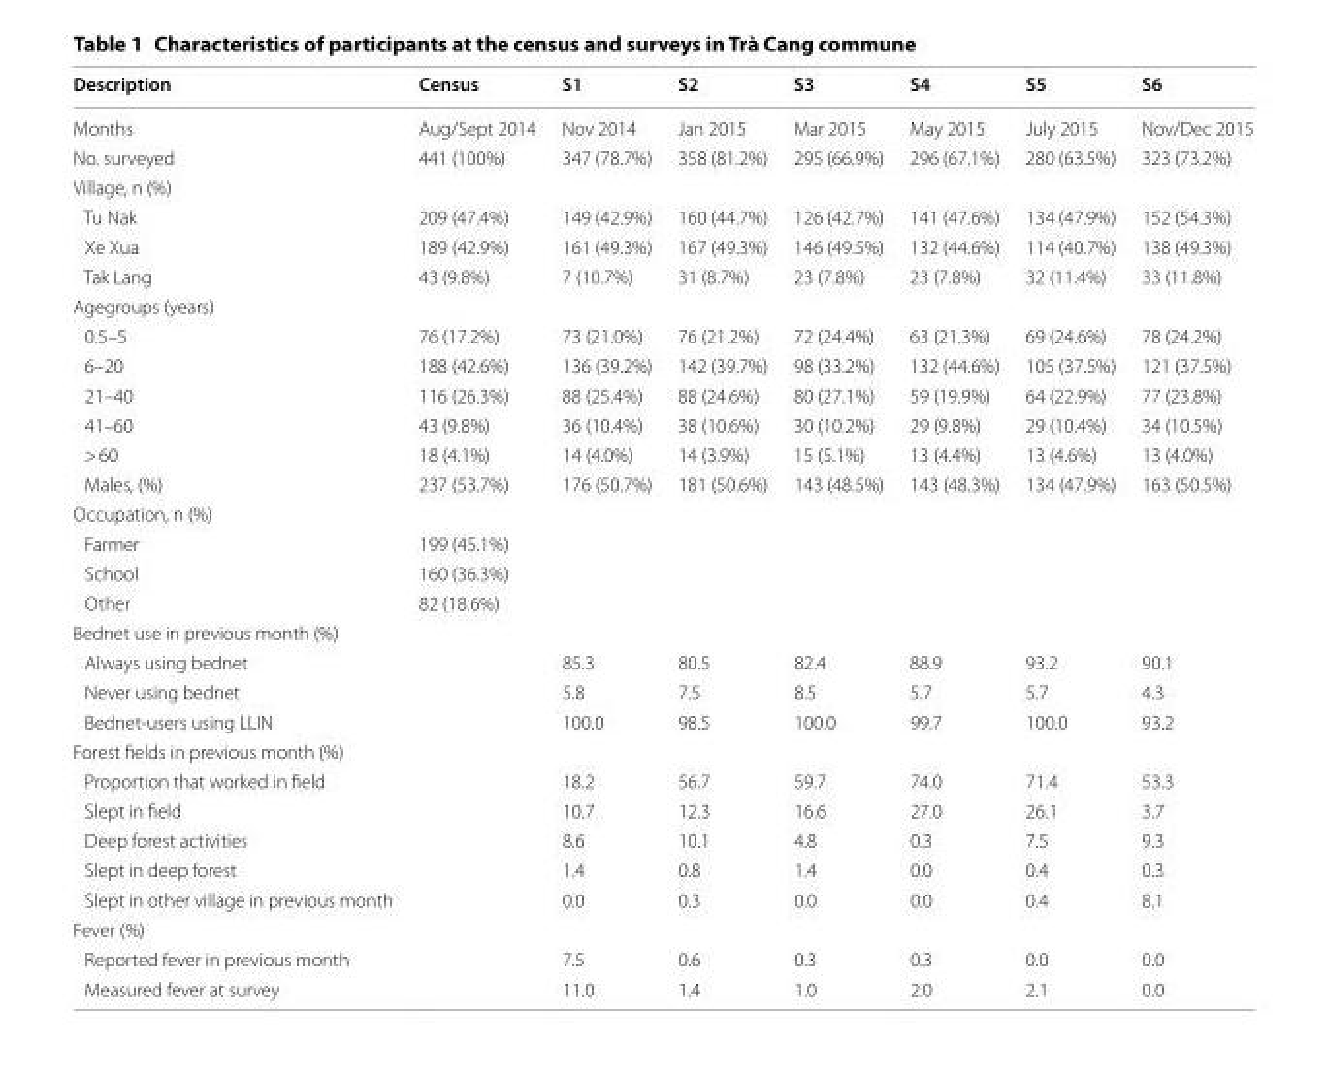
<table><thead><tr><td>Description</td><td>Census</td><td>S1</td><td>S2</td><td>S3</td><td>S4</td><td>S5</td><td>S6</td></tr></thead><tbody><tr><td>Months</td><td>Aug/Sept 2014</td><td>Nov 2014</td><td>Jan 2015</td><td>Mar 2015</td><td>May 2015</td><td>July 2015</td><td>Nov/Dec 2015</td></tr><tr><td>No. surveyed</td><td>441 (100%)</td><td>347 (78.7%)</td><td>358 (81.2%)</td><td>295 (66.9%)</td><td>296 (67.1%)</td><td>280 (63.5%)</td><td>323 (73.2%)</td></tr><tr><td colspan="8">Village, n (%)</td></tr><tr><td>Tu Nak</td><td>209 (47.4%)</td><td>149 (42.9%)</td><td>160 (44.7%)</td><td>126 (42.7%)</td><td>141 (47.6%)</td><td>134 (47.9%)</td><td>152 (54.3%)</td></tr><tr><td>Xe Xua</td><td>189 (42.9%)</td><td>161 (49.3%)</td><td>167 (49.3%)</td><td>146 (49.5%)</td><td>132 (44.6%)</td><td>114 (40.7%)</td><td>138 (49.3%)</td></tr><tr><td>Tak Lang</td><td>43 (9.8%)</td><td>7 (10.7%)</td><td>31 (8.7%)</td><td>23 (7.8%)</td><td>23 (7.8%)</td><td>32 (11.4%)</td><td>33 (11.8%)</td></tr><tr><td colspan="8">Agegroups (years)</td></tr><tr><td>0.5–5</td><td>76 (17.2%)</td><td>73 (21.0%)</td><td>76 (21.2%)</td><td>72 (24.4%)</td><td>63 (21.3%)</td><td>69 (24.6%)</td><td>78 (24.2%)</td></tr><tr><td>6–20</td><td>188 (42.6%)</td><td>136 (39.2%)</td><td>142 (39.7%)</td><td>98 (33.2%)</td><td>132 (44.6%)</td><td>105 (37.5%)</td><td>121 (37.5%)</td></tr><tr><td>21–40</td><td>116 (26.3%)</td><td>88 (25.4%)</td><td>88 (24.6%)</td><td>80 (27.1%)</td><td>59 (19.9%)</td><td>64 (22.9%)</td><td>77 (23.8%)</td></tr><tr><td>41–60</td><td>43 (9.8%)</td><td>36 (10.4%)</td><td>38 (10.6%)</td><td>30 (10.2%)</td><td>29 (9.8%)</td><td>29 (10.4%)</td><td>34 (10.5%)</td></tr><tr><td>&gt; 60</td><td>18 (4.1%)</td><td>14 (4.0%)</td><td>14 (3.9%)</td><td>15 (5.1%)</td><td>13 (4.4%)</td><td>13 (4.6%)</td><td>13 (4.0%)</td></tr><tr><td>Males, (%)</td><td>237 (53.7%)</td><td>176 (50.7%)</td><td>181 (50.6%)</td><td>143 (48.5%)</td><td>143 (48.3%)</td><td>134 (47.9%)</td><td>163 (50.5%)</td></tr><tr><td colspan="8">Occupation, n (%)</td></tr><tr><td>Farmer</td><td>199 (45.1%)</td><td></td><td></td><td></td><td></td><td></td><td></td></tr><tr><td>School</td><td>160 (36.3%)</td><td></td><td></td><td></td><td></td><td></td><td></td></tr><tr><td>Other</td><td>82 (18.6%)</td><td></td><td></td><td></td><td></td><td></td><td></td></tr><tr><td colspan="8">Bednet use in previous month (%)</td></tr><tr><td>Always using bednet</td><td></td><td>85.3</td><td>80.5</td><td>82.4</td><td>88.9</td><td>93.2</td><td>90.1</td></tr><tr><td>Never using bednet</td><td></td><td>5.8</td><td>7.5</td><td>8.5</td><td>5.7</td><td>5.7</td><td>4.3</td></tr><tr><td>Bednet‑users using LLIN</td><td></td><td>100.0</td><td>98.5</td><td>100.0</td><td>99.7</td><td>100.0</td><td>93.2</td></tr><tr><td colspan="8">Forest fields in previous month (%)</td></tr><tr><td>Proportion that worked in field</td><td></td><td>18.2</td><td>56.7</td><td>59.7</td><td>74.0</td><td>71.4</td><td>53.3</td></tr><tr><td>Slept in field</td><td></td><td>10.7</td><td>12.3</td><td>16.6</td><td>27.0</td><td>26.1</td><td>3.7</td></tr><tr><td>Deep forest activities</td><td></td><td>8.6</td><td>10.1</td><td>4.8</td><td>0.3</td><td>7.5</td><td>9.3</td></tr><tr><td>Slept in deep forest</td><td></td><td>1.4</td><td>0.8</td><td>1.4</td><td>0.0</td><td>0.4</td><td>0.3</td></tr><tr><td>Slept in other village in previous month</td><td></td><td>0.0</td><td>0.3</td><td>0.0</td><td>0.0</td><td>0.4</td><td>8.1</td></tr><tr><td colspan="8">Fever (%)</td></tr><tr><td>Reported fever in previous month</td><td></td><td>7.5</td><td>0.6</td><td>0.3</td><td>0.3</td><td>0.0</td><td>0.0</td></tr><tr><td>Measured fever at survey</td><td></td><td>11.0</td><td>1.4</td><td>1.0</td><td>2.0</td><td>2.1</td><td>0.0</td></tr></tbody></table>